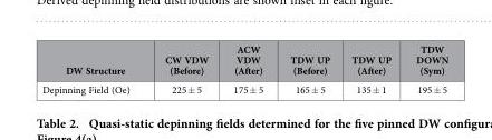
<table><thead><tr><td>DW Structure</td><td>CW VDW (Before)</td><td>ACW VDW (After)</td><td>TDW UP (Before)</td><td>TDW UP (After)</td><td>TDW DOWN (Sym)</td></tr></thead><tbody><tr><td>Depinning Field (Oe)</td><td>225 ± 5</td><td>175 ± 5</td><td>165 ± 5</td><td>135 ± 1</td><td>195 ± 5</td></tr></tbody></table>